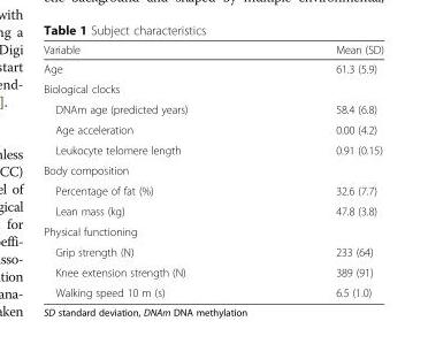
<table><thead><tr><td>Variable</td><td>Mean (SD)</td></tr></thead><tbody><tr><td>Age</td><td>61.3 (5.9)</td></tr><tr><td colspan="2">Biological clocks</td></tr><tr><td>DNAm age (predicted years)</td><td>58.4 (6.8)</td></tr><tr><td>Age acceleration</td><td>0.00 (4.2)</td></tr><tr><td>Leukocyte telomere length</td><td>0.91 (0.15)</td></tr><tr><td colspan="2">Body composition</td></tr><tr><td>Percentage of fat (%)</td><td>32.6 (7.7)</td></tr><tr><td>Lean mass (kg)</td><td>47.8 (3.8)</td></tr><tr><td colspan="2">Physical functioning</td></tr><tr><td>Grip strength (N)</td><td>233 (64)</td></tr><tr><td>Knee extension strength (N)</td><td>389 (91)</td></tr><tr><td>Walking speed 10 m (s)</td><td>6.5 (1.0)</td></tr></tbody></table>